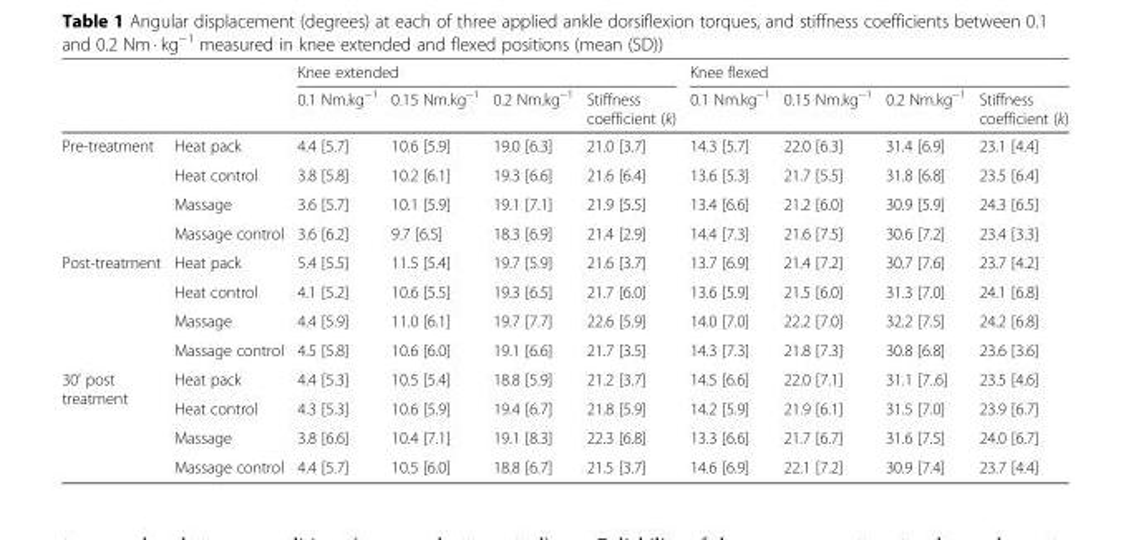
<table><thead><tr><td rowspan="2"></td><td rowspan="2"></td><td colspan="4">Knee extended</td><td colspan="4">Knee flexed</td></tr><tr><td>0.1 Nm.kg<sup>−1</sup></td><td>0.15 Nm.kg<sup>−1</sup></td><td>0.2 Nm.kg<sup>−1</sup></td><td>Stiffness coefficient (k)</td><td>0.1 Nm.kg<sup>−1</sup></td><td>0.15 Nm.kg<sup>−1</sup></td><td>0.2 Nm.kg<sup>−1</sup></td><td>Stiffness coefficient (k)</td></tr></thead><tbody><tr><td rowspan="4">Pre-treatment</td><td>Heat pack</td><td>4.4 [5.7]</td><td>10.6 [5.9]</td><td>19.0 [6.3]</td><td>21.0 [3.7]</td><td>14.3 [5.7]</td><td>22.0 [6.3]</td><td>31.4 [6.9]</td><td>23.1 [4.4]</td></tr><tr><td>Heat control</td><td>3.8 [5.8]</td><td>10.2 [6.1]</td><td>19.3 [6.6]</td><td>21.6 [6.4]</td><td>13.6 [5.3]</td><td>21.7 [5.5]</td><td>31.8 [6.8]</td><td>23.5 [6.4]</td></tr><tr><td>Massage</td><td>3.6 [5.7]</td><td>10.1 [5.9]</td><td>19.1 [7.1]</td><td>21.9 [5.5]</td><td>13.4 [6.6]</td><td>21.2 [6.0]</td><td>30.9 [5.9]</td><td>24.3 [6.5]</td></tr><tr><td>Massage control</td><td>3.6 [6.2]</td><td>9.7 [6.5]</td><td>18.3 [6.9]</td><td>21.4 [2.9]</td><td>14.4 [7.3]</td><td>21.6 [7.5]</td><td>30.6 [7.2]</td><td>23.4 [3.3]</td></tr><tr><td rowspan="4">Post-treatment</td><td>Heat pack</td><td>5.4 [5.5]</td><td>11.5 [5.4]</td><td>19.7 [5.9]</td><td>21.6 [3.7]</td><td>13.7 [6.9]</td><td>21.4 [7.2]</td><td>30.7 [7.6]</td><td>23.7 [4.2]</td></tr><tr><td>Heat control</td><td>4.1 [5.2]</td><td>10.6 [5.5]</td><td>19.3 [6.5]</td><td>21.7 [6.0]</td><td>13.6 [5.9]</td><td>21.5 [6.0]</td><td>31.3 [7.0]</td><td>24.1 [6.8]</td></tr><tr><td>Massage</td><td>4.4 [5.9]</td><td>11.0 [6.1]</td><td>19.7 [7.7]</td><td>22.6 [5.9]</td><td>14.0 [7.0]</td><td>22.2 [7.0]</td><td>32.2 [7.5]</td><td>24.2 [6.8]</td></tr><tr><td>Massage control</td><td>4.5 [5.8]</td><td>10.6 [6.0]</td><td>19.1 [6.6]</td><td>21.7 [3.5]</td><td>14.3 [7.3]</td><td>21.8 [7.3]</td><td>30.8 [6.8]</td><td>23.6 [3.6]</td></tr><tr><td rowspan="4">30’ post treatment</td><td>Heat pack</td><td>4.4 [5.3]</td><td>10.5 [5.4]</td><td>18.8 [5.9]</td><td>21.2 [3.7]</td><td>14.5 [6.6]</td><td>22.0 [7.1]</td><td>31.1 [7..6]</td><td>23.5 [4.6]</td></tr><tr><td>Heat control</td><td>4.3 [5.3]</td><td>10.6 [5.9]</td><td>19.4 [6.7]</td><td>21.8 [5.9]</td><td>14.2 [5.9]</td><td>21.9 [6.1]</td><td>31.5 [7.0]</td><td>23.9 [6.7]</td></tr><tr><td>Massage</td><td>3.8 [6.6]</td><td>10.4 [7.1]</td><td>19.1 [8.3]</td><td>22.3 [6.8]</td><td>13.3 [6.6]</td><td>21.7 [6.7]</td><td>31.6 [7.5]</td><td>24.0 [6.7]</td></tr><tr><td>Massage control</td><td>4.4 [5.7]</td><td>10.5 [6.0]</td><td>18.8 [6.7]</td><td>21.5 [3.7]</td><td>14.6 [6.9]</td><td>22.1 [7.2]</td><td>30.9 [7.4]</td><td>23.7 [4.4]</td></tr></tbody></table>